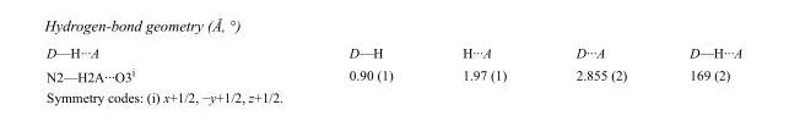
<table><tbody><tr><td>D—H···A</td><td>D—H</td><td>H···A</td><td>D···A</td><td>D—H···A</td></tr><tr><td>N2—H2A···O3<sup>i</sup></td><td>0.90 (1)</td><td>1.97 (1)</td><td>2.855 (2)</td><td>169 (2)</td></tr></tbody></table>